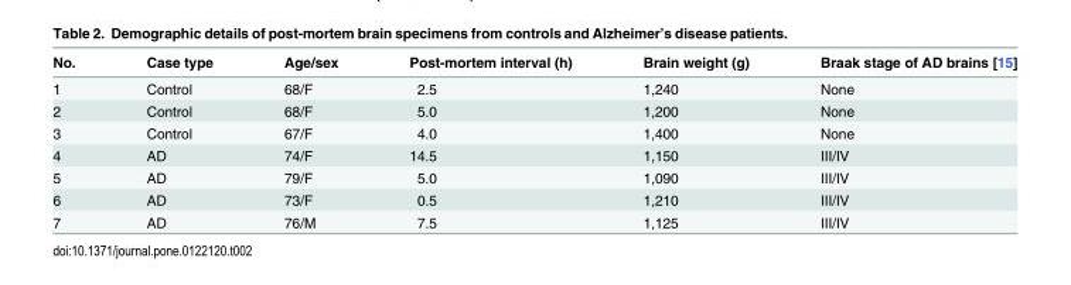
<table><thead><tr><td>No.</td><td>Case type</td><td>Age/sex</td><td>Post-mortem interval (h)</td><td>Brain weight (g)</td><td>Braak stage of AD brains [15]</td></tr></thead><tbody><tr><td>1</td><td>Control</td><td>68/F</td><td>2.5</td><td>1,240</td><td>None</td></tr><tr><td>2</td><td>Control</td><td>68/F</td><td>5.0</td><td>1,200</td><td>None</td></tr><tr><td>3</td><td>Control</td><td>67/F</td><td>4.0</td><td>1,400</td><td>None</td></tr><tr><td>4</td><td>AD</td><td>74/F</td><td>14.5</td><td>1,150</td><td>III/IV</td></tr><tr><td>5</td><td>AD</td><td>79/F</td><td>5.0</td><td>1,090</td><td>III/IV</td></tr><tr><td>6</td><td>AD</td><td>73/F</td><td>0.5</td><td>1,210</td><td>III/IV</td></tr><tr><td>7</td><td>AD</td><td>76/M</td><td>7.5</td><td>1,125</td><td>III/IV</td></tr></tbody></table>